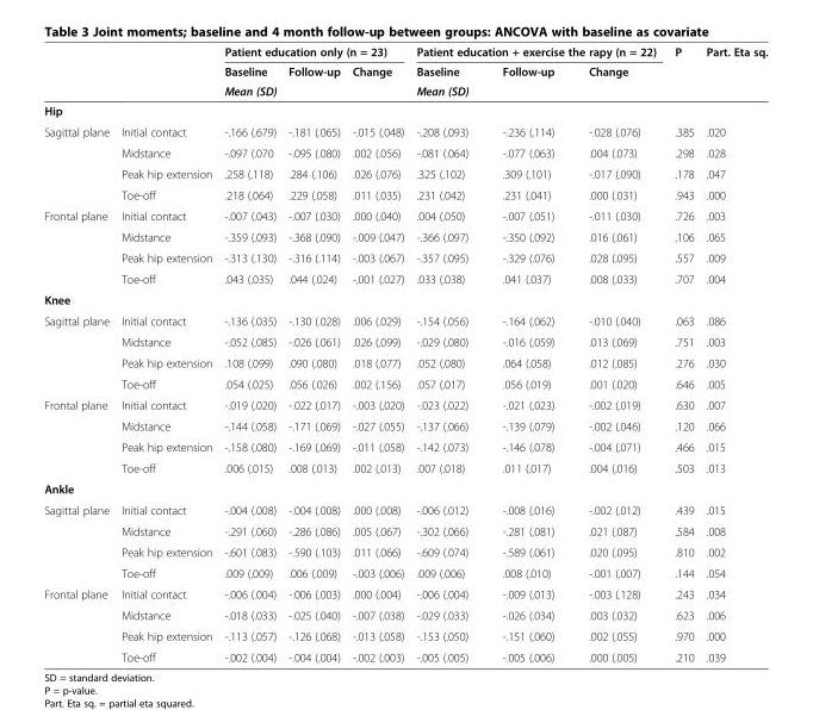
<table><thead><tr><td rowspan="3"></td><td rowspan="3"></td><td colspan="3">Patient education only (n = 23)</td><td colspan="3">Patient education + exercise the rapy (n = 22)</td><td rowspan="3">P</td><td rowspan="3">Part. Eta sq.</td></tr><tr><td>Baseline</td><td>Follow-up</td><td>Change</td><td>Baseline</td><td>Follow-up</td><td>Change</td></tr><tr><td colspan="3">Mean (SD)</td><td colspan="3">Mean (SD)</td></tr></thead><tbody><tr><td colspan="10">Hip</td></tr><tr><td rowspan="4">Sagittal plane</td><td>Initial contact</td><td>-.166 (.679)</td><td>-.181 (.065)</td><td>-.015 (.048)</td><td>-.208 (.093)</td><td>-.236 (.114)</td><td>-.028 (.076)</td><td>.385</td><td>.020</td></tr><tr><td>Midstance</td><td>-.097 (.070</td><td>-.095 (.080)</td><td>.002 (.056)</td><td>-.081 (.064)</td><td>-.077 (.063)</td><td>.004 (.073)</td><td>.298</td><td>.028</td></tr><tr><td>Peak hip extension</td><td>.258 (.118)</td><td>.284 (.106)</td><td>.026 (.076)</td><td>.325 (.102)</td><td>.309 (.101)</td><td>-.017 (.090)</td><td>.178</td><td>.047</td></tr><tr><td>Toe-off</td><td>.218 (.064)</td><td>.229 (.058)</td><td>.011 (.035)</td><td>.231 (.042)</td><td>.231 (.041)</td><td>.000 (.031)</td><td>.943</td><td>.000</td></tr><tr><td rowspan="4">Frontal plane</td><td>Initial contact</td><td>-.007 (.043)</td><td>-.007 (.030)</td><td>.000 (.040)</td><td>.004 (.050)</td><td>-.007 (.051)</td><td>-.011 (.030)</td><td>.726</td><td>.003</td></tr><tr><td>Midstance</td><td>-.359 (.093)</td><td>-.368 (.090)</td><td>-.009 (.047)</td><td>-.366 (.097)</td><td>-.350 (.092)</td><td>.016 (.061)</td><td>.106</td><td>.065</td></tr><tr><td>Peak hip extension</td><td>-.313 (.130)</td><td>-.316 (.114)</td><td>-.003 (.067)</td><td>-.357 (.095)</td><td>-.329 (.076)</td><td>.028 (.095)</td><td>.557</td><td>.009</td></tr><tr><td>Toe-off</td><td>.043 (.035)</td><td>.044 (.024)</td><td>-.001 (.027)</td><td>.033 (.038)</td><td>.041 (.037)</td><td>.008 (.033)</td><td>.707</td><td>.004</td></tr><tr><td colspan="10">Knee</td></tr><tr><td rowspan="4">Sagittal plane</td><td>Initial contact</td><td>-.136 (.035)</td><td>-.130 (.028)</td><td>.006 (.029)</td><td>-.154 (.056)</td><td>-.164 (.062)</td><td>-.010 (.040)</td><td>.063</td><td>.086</td></tr><tr><td>Midstance</td><td>-.052 (.085)</td><td>-.026 (.061)</td><td>.026 (.099)</td><td>-.029 (.080)</td><td>-.016 (.059)</td><td>.013 (.069)</td><td>.751</td><td>.003</td></tr><tr><td>Peak hip extension</td><td>.108 (.099)</td><td>.090 (.080)</td><td>.018 (.077)</td><td>.052 (.080)</td><td>.064 (.058)</td><td>.012 (.085)</td><td>.276</td><td>.030</td></tr><tr><td>Toe-off</td><td>.054 (.025)</td><td>.056 (.026)</td><td>.002 (.156)</td><td>.057 (.017)</td><td>.056 (.019)</td><td>.001 (.020)</td><td>.646</td><td>.005</td></tr><tr><td rowspan="4">Frontal plane</td><td>Initial contact</td><td>-.019 (.020)</td><td>-.022 (.017)</td><td>-.003 (.020)</td><td>-.023 (.022)</td><td>-.021 (.023)</td><td>-.002 (.019)</td><td>.630</td><td>.007</td></tr><tr><td>Midstance</td><td>-.144 (.058)</td><td>-.171 (.069)</td><td>-.027 (.055)</td><td>-.137 (.066)</td><td>-.139 (.079)</td><td>-.002 (.046)</td><td>.120</td><td>.066</td></tr><tr><td>Peak hip extension</td><td>-.158 (.080)</td><td>-.169 (.069)</td><td>-.011 (.058)</td><td>-.142 (.073)</td><td>-.146 (.078)</td><td>-.004 (.071)</td><td>.466</td><td>.015</td></tr><tr><td>Toe-off</td><td>.006 (.015)</td><td>.008 (.013)</td><td>.002 (.013)</td><td>.007 (.018)</td><td>.011 (.017)</td><td>.004 (.016)</td><td>.503</td><td>.013</td></tr><tr><td colspan="10">Ankle</td></tr><tr><td rowspan="4">Sagittal plane</td><td>Initial contact</td><td>-.004 (.008)</td><td>-.004 (.008)</td><td>.000 (.008)</td><td>-.006 (.012)</td><td>-.008 (.016)</td><td>-.002 (.012)</td><td>.439</td><td>.015</td></tr><tr><td>Midstance</td><td>-.291 (.060)</td><td>-.286 (.086)</td><td>.005 (.067)</td><td>-.302 (.066)</td><td>-.281 (.081)</td><td>.021 (.087)</td><td>.584</td><td>.008</td></tr><tr><td>Peak hip extension</td><td>-.601 (.083)</td><td>-.590 (.103)</td><td>.011 (.066)</td><td>-.609 (.074)</td><td>-.589 (.061)</td><td>.020 (.095)</td><td>.810</td><td>.002</td></tr><tr><td>Toe-off</td><td>.009 (.009)</td><td>.006 (.009)</td><td>-.003 (.006)</td><td>.009 (.006)</td><td>.008 (.010)</td><td>-.001 (.007)</td><td>.144</td><td>.054</td></tr><tr><td rowspan="4">Frontal plane</td><td>Initial contact</td><td>-.006 (.004)</td><td>-.006 (.003)</td><td>.000 (.004)</td><td>-.006 (.004)</td><td>-.009 (.013)</td><td>-.003 (.128)</td><td>.243</td><td>.034</td></tr><tr><td>Midstance</td><td>-.018 (.033)</td><td>-.025 (.040)</td><td>-.007 (.038)</td><td>-.029 (.033)</td><td>-.026 (.034)</td><td>.003 (.032)</td><td>.623</td><td>.006</td></tr><tr><td>Peak hip extension</td><td>-.113 (.057)</td><td>-.126 (.068)</td><td>-.013 (.058)</td><td>-.153 (.050)</td><td>-.151 (.060)</td><td>.002 (.055)</td><td>.970</td><td>.000</td></tr><tr><td>Toe-off</td><td>-.002 (.004)</td><td>-.004 (.004)</td><td>-.002 (.003)</td><td>-.005 (.005)</td><td>-.005 (.006)</td><td>.000 (.005)</td><td>.210</td><td>.039</td></tr></tbody></table>